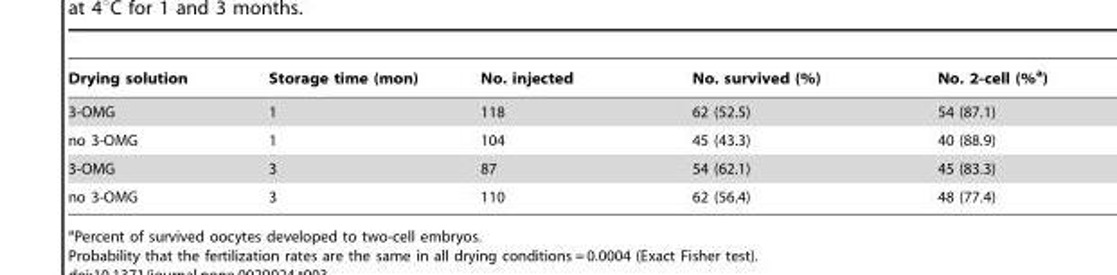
<table><thead><tr><td>Drying solution</td><td>Storage time (mon)</td><td>No. injected</td><td>No. survived (%)</td><td>No. 2-cell (%<sup>a</sup>)</td></tr></thead><tbody><tr><td>3-OMG</td><td>1</td><td>118</td><td>62 (52.5)</td><td>54 (87.1)</td></tr><tr><td>no 3-OMG</td><td>1</td><td>104</td><td>45 (43.3)</td><td>40 (88.9)</td></tr><tr><td>3-OMG</td><td>3</td><td>87</td><td>54 (62.1)</td><td>45 (83.3)</td></tr><tr><td>no 3-OMG</td><td>3</td><td>110</td><td>62 (56.4)</td><td>48 (77.4)</td></tr></tbody></table>